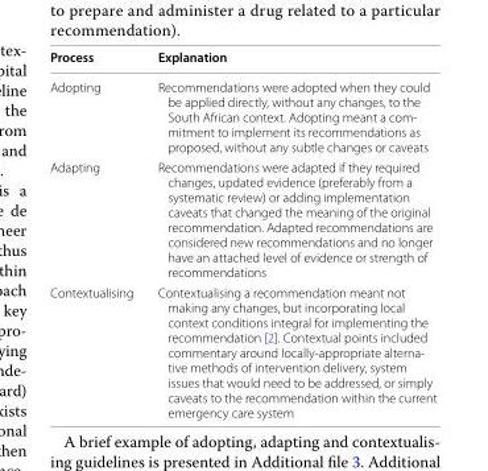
<table><thead><tr><td>Process</td><td>Explanation</td></tr></thead><tbody><tr><td>Adopting</td><td>Recommendations were adopted when they could be applied directly, without any changes, to the South African context. Adopting meant a com- mitment to implement its recommendations as proposed, without any subtle changes or caveats</td></tr><tr><td>Adapting</td><td>Recommendations were adapted if they required changes, updated evidence (preferably from a systematic review) or adding implementation caveats that changed the meaning of the original recommendation. Adapted recommendations are considered new recommendations and no longer have an attached level of evidence or strength of recommendations</td></tr><tr><td>Contextualising</td><td>Contextualising a recommendation meant not making any changes, but incorporating local context conditions integral for implementing the recommendation [2]. Contextual points included commentary around locally-appropriate alterna- tive methods of intervention delivery, system issues that would need to be addressed, or simply caveats to the recommendation within the current emergency care system</td></tr></tbody></table>